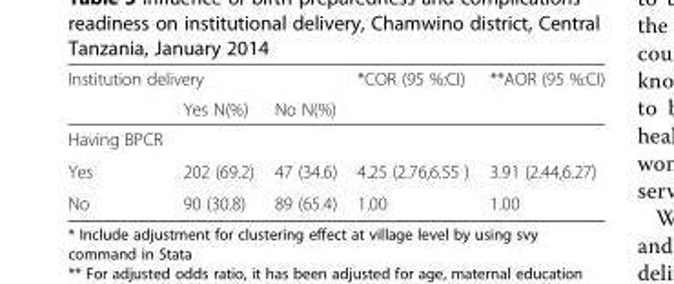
<table><thead><tr><td colspan="3">Institution delivery</td><td rowspan="2">*COR (95 %:CI)</td><td rowspan="2">**AOR (95 %:CI)</td></tr><tr><td></td><td>Yes N(%)</td><td>No N(%)</td></tr></thead><tbody><tr><td colspan="5">Having BPCR</td></tr><tr><td>Yes</td><td>202 (69.2)</td><td>47 (34.6)</td><td>4.25 (2.76,6.55 )</td><td>3.91 (2.44,6.27)</td></tr><tr><td>No</td><td>90 (30.8)</td><td>89 (65.4)</td><td>1.00</td><td>1.00</td></tr></tbody></table>